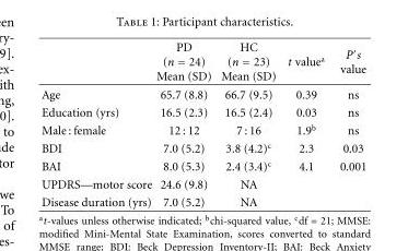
<table><thead><tr><td></td><td>PD (n = 24) Mean (SD)</td><td>HC (n = 23) Mean (SD)</td><td>t value<sup>a</sup></td><td>P′s value</td></tr></thead><tbody><tr><td>Age</td><td>65.7 (8.8)</td><td>66.7 (9.5)</td><td>0.39</td><td>ns</td></tr><tr><td>Education (yrs)</td><td>16.5 (2.3)</td><td>16.5 (2.4)</td><td>0.03</td><td>ns</td></tr><tr><td>Male : female</td><td>12 : 12</td><td>7 : 16</td><td>1.9<sup>b</sup></td><td>ns</td></tr><tr><td>BDI</td><td>7.0 (5.2)</td><td>3.8 (4.2)<sup>c</sup></td><td>2.3</td><td>0.03</td></tr><tr><td>BAI</td><td>8.0 (5.3)</td><td>2.4 (3.4)<sup>c</sup></td><td>4.1</td><td>0.001</td></tr><tr><td>UPDRS—motor score</td><td>24.6 (9.8)</td><td>NA</td><td></td><td></td></tr><tr><td>Disease duration (yrs)</td><td>7.0 (5.2)</td><td>NA</td><td></td><td></td></tr></tbody></table>